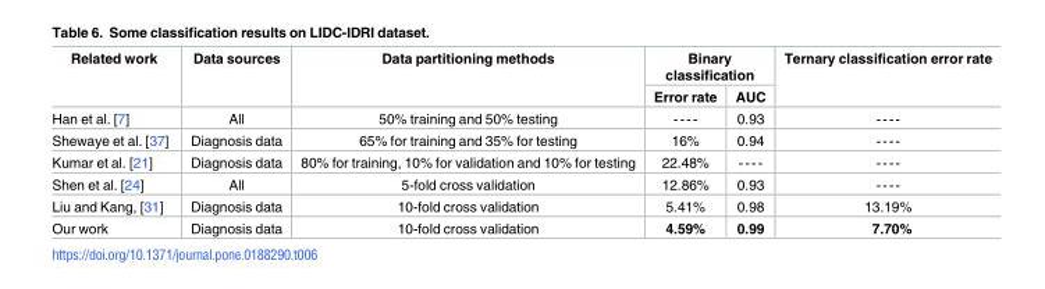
<table><thead><tr><td rowspan="2">Related work</td><td rowspan="2">Data sources</td><td rowspan="2">Data partitioning methods</td><td colspan="2">Binary classification</td><td rowspan="2">Ternary classification error rate</td></tr><tr><td>Error rate</td><td>AUC</td></tr></thead><tbody><tr><td>Han et al. [7]</td><td>All</td><td>50% training and 50% testing</td><td>----</td><td>0.93</td><td>----</td></tr><tr><td>Shewaye et al. [37]</td><td>Diagnosis data</td><td>65% for training and 35% for testing</td><td>16%</td><td>0.94</td><td>----</td></tr><tr><td>Kumar et al. [21]</td><td>Diagnosis data</td><td>80% for training, 10% for validation and 10% for testing</td><td>22.48%</td><td>----</td><td>----</td></tr><tr><td>Shen et al. [24]</td><td>All</td><td>5-fold cross validation</td><td>12.86%</td><td>0.93</td><td>----</td></tr><tr><td>Liu and Kang, [31]</td><td>Diagnosis data</td><td>10-fold cross validation</td><td>5.41%</td><td>0.98</td><td>13.19%</td></tr><tr><td>Our work</td><td>Diagnosis data</td><td>10-fold cross validation</td><td>4.59%</td><td>0.99</td><td>7.70%</td></tr></tbody></table>